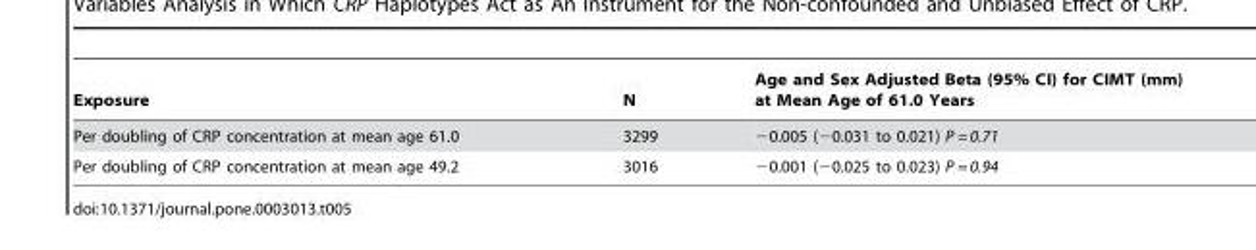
<table><thead><tr><td>Exposure</td><td>N</td><td>Age and Sex Adjusted Beta (95% CI) for CIMT (mm) at Mean Age of 61.0 Years</td></tr></thead><tbody><tr><td>Per doubling of CRP concentration at mean age 61.0</td><td>3299</td><td>−0.005 (−0.031 to 0.021) P = 0.71</td></tr><tr><td>Per doubling of CRP concentration at mean age 49.2</td><td>3016</td><td>−0.001 (−0.025 to 0.023) P = 0.94</td></tr></tbody></table>